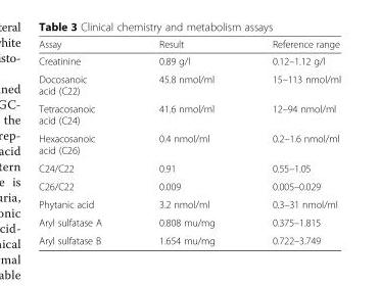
<table><thead><tr><td>Assay</td><td>Result</td><td>Reference range</td></tr></thead><tbody><tr><td>Creatinine</td><td>0.89 g/l</td><td>0.12–1.12 g/l</td></tr><tr><td>Docosanoic acid (C22)</td><td>45.8 nmol/ml</td><td>15–113 nmol/ml</td></tr><tr><td>Tetracosanoic acid (C24)</td><td>41.6 nmol/ml</td><td>12–94 nmol/ml</td></tr><tr><td>Hexacosanoic acid (C26)</td><td>0.4 nmol/ml</td><td>0.2–1.6 nmol/ml</td></tr><tr><td>C24/C22</td><td>0.91</td><td>0.55–1.05</td></tr><tr><td>C26/C22</td><td>0.009</td><td>0.005–0.029</td></tr><tr><td>Phytanic acid</td><td>3.2 nmol/ml</td><td>0.3–31 nmol/ml</td></tr><tr><td>Aryl sulfatase A</td><td>0.808 mu/mg</td><td>0.375–1.815</td></tr><tr><td>Aryl sulfatase B</td><td>1.654 mu/mg</td><td>0.722–3.749</td></tr></tbody></table>